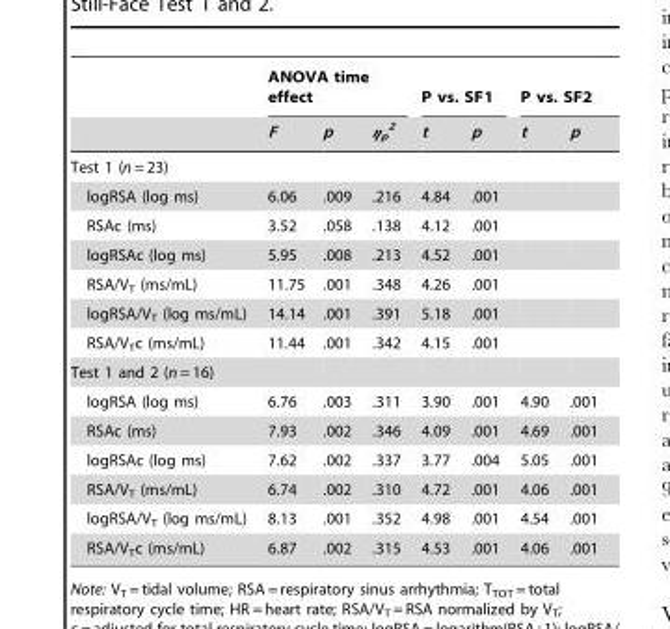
<table><thead><tr><td rowspan="2"></td><td colspan="3">ANOVA time effect</td><td colspan="2">P vs. SF1</td><td colspan="2">P vs. SF2</td></tr><tr><td>F</td><td>p</td><td>η<sub>p</sub> <sup>2</sup></td><td>t</td><td>p</td><td>t</td><td>p</td></tr></thead><tbody><tr><td colspan="8">Test 1 (n = 23)</td></tr><tr><td>logRSA (log ms)</td><td>6.06</td><td>.009</td><td>.216</td><td>4.84</td><td>.001</td><td></td><td></td></tr><tr><td>RSAc (ms)</td><td>3.52</td><td>.058</td><td>.138</td><td>4.12</td><td>.001</td><td></td><td></td></tr><tr><td>logRSAc (log ms)</td><td>5.95</td><td>.008</td><td>.213</td><td>4.52</td><td>.001</td><td></td><td></td></tr><tr><td>RSA/V<sub>T</sub> (ms/mL)</td><td>11.75</td><td>.001</td><td>.348</td><td>4.26</td><td>.001</td><td></td><td></td></tr><tr><td>logRSA/V<sub>T</sub> (log ms/mL)</td><td>14.14</td><td>.001</td><td>.391</td><td>5.18</td><td>.001</td><td></td><td></td></tr><tr><td>RSA/V<sub>T</sub>c (ms/mL)</td><td>11.44</td><td>.001</td><td>.342</td><td>4.15</td><td>.001</td><td></td><td></td></tr><tr><td colspan="8">Test 1 and 2 (n = 16)</td></tr><tr><td>logRSA (log ms)</td><td>6.76</td><td>.003</td><td>.311</td><td>3.90</td><td>.001</td><td>4.90</td><td>.001</td></tr><tr><td>RSAc (ms)</td><td>7.93</td><td>.002</td><td>.346</td><td>4.09</td><td>.001</td><td>4.69</td><td>.001</td></tr><tr><td>logRSAc (log ms)</td><td>7.62</td><td>.002</td><td>.337</td><td>3.77</td><td>.004</td><td>5.05</td><td>.001</td></tr><tr><td>RSA/V<sub>T</sub> (ms/mL)</td><td>6.74</td><td>.002</td><td>.310</td><td>4.72</td><td>.001</td><td>4.06</td><td>.001</td></tr><tr><td>logRSA/V<sub>T</sub> (log ms/mL)</td><td>8.13</td><td>.001</td><td>.352</td><td>4.98</td><td>.001</td><td>4.54</td><td>.001</td></tr><tr><td>RSA/V<sub>T</sub>c (ms/mL)</td><td>6.87</td><td>.002</td><td>.315</td><td>4.53</td><td>.001</td><td>4.06</td><td>.001</td></tr></tbody></table>